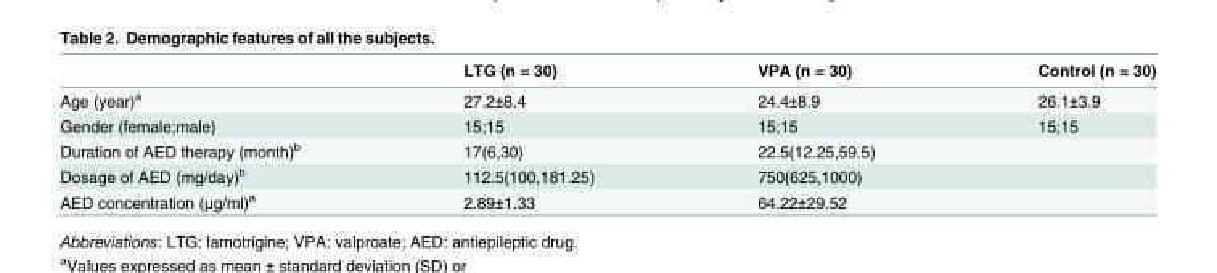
<table><thead><tr><td></td><td>LTG (n = 30)</td><td>VPA (n = 30)</td><td>Control (n = 30)</td></tr></thead><tbody><tr><td>Age (year)<sup>a</sup></td><td>27.2±8.4</td><td>24.4±8.9</td><td>26.1±3.9</td></tr><tr><td>Gender (female;male)</td><td>15;15</td><td>15;15</td><td>15;15</td></tr><tr><td>Duration of AED therapy (month)<sup>b</sup></td><td>17(6,30)</td><td>22.5(12.25,59.5)</td><td></td></tr><tr><td>Dosage of AED (mg/day)<sup>b</sup></td><td>112.5(100,181.25)</td><td>750(625,1000)</td><td></td></tr><tr><td>AED concentration (μg/ml)<sup>a</sup></td><td>2.89±1.33</td><td>64.22±29.52</td><td></td></tr></tbody></table>